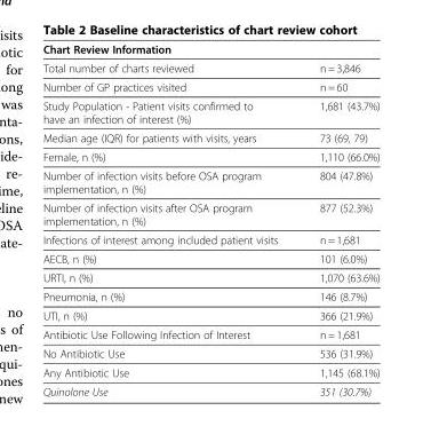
<table><thead><tr><td>Chart Review Information</td><td></td></tr></thead><tbody><tr><td>Total number of charts reviewed</td><td>n = 3,846</td></tr><tr><td>Number of GP practices visited</td><td>n = 60</td></tr><tr><td>Study Population - Patient visits confirmed to have an infection of interest (%)</td><td>1,681 (43.7%)</td></tr><tr><td>Median age (IQR) for patients with visits, years</td><td>73 (69, 79)</td></tr><tr><td>Female, n (%)</td><td>1,110 (66.0%)</td></tr><tr><td>Number of infection visits before OSA program implementation, n (%)</td><td>804 (47.8%)</td></tr><tr><td>Number of infection visits after OSA program implementation, n (%)</td><td>877 (52.3%)</td></tr><tr><td>Infections of interest among included patient visits</td><td>n = 1,681</td></tr><tr><td>AECB, n (%)</td><td>101 (6.0%)</td></tr><tr><td>URTI, n (%)</td><td>1,070 (63.6%)</td></tr><tr><td>Pneumonia, n (%)</td><td>146 (8.7%)</td></tr><tr><td>UTI, n (%)</td><td>366 (21.9%)</td></tr><tr><td>Antibiotic Use Following Infection of Interest</td><td>n = 1,681</td></tr><tr><td>No Antibiotic Use</td><td>536 (31.9%)</td></tr><tr><td>Any Antibiotic Use</td><td>1,145 (68.1%)</td></tr><tr><td>Quinolone Use</td><td>351 (30.7%)</td></tr></tbody></table>